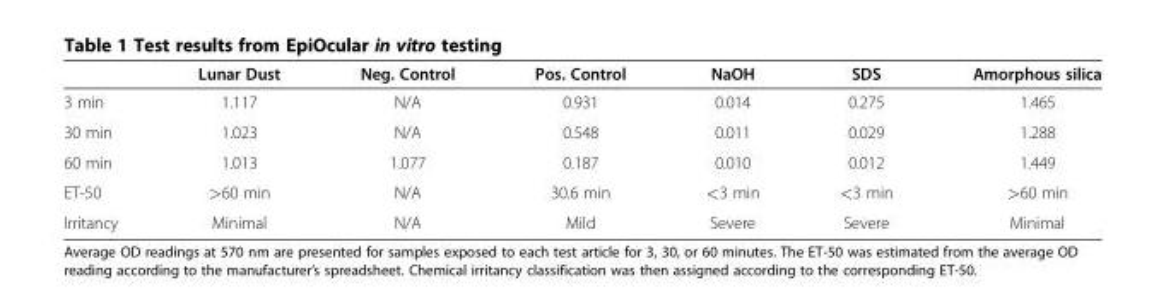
<table><thead><tr><td></td><td>Lunar Dust</td><td>Neg. Control</td><td>Pos. Control</td><td>NaOH</td><td>SDS</td><td>Amorphous silica</td></tr></thead><tbody><tr><td>3 min</td><td>1.117</td><td>N/A</td><td>0.931</td><td>0.014</td><td>0.275</td><td>1.465</td></tr><tr><td>30 min</td><td>1.023</td><td>N/A</td><td>0.548</td><td>0.011</td><td>0.029</td><td>1.288</td></tr><tr><td>60 min</td><td>1.013</td><td>1.077</td><td>0.187</td><td>0.010</td><td>0.012</td><td>1.449</td></tr><tr><td>ET-50</td><td>&gt;60 min</td><td>N/A</td><td>30.6 min</td><td>&lt;3 min</td><td>&lt;3 min</td><td>&gt;60 min</td></tr><tr><td>Irritancy</td><td>Minimal</td><td>N/A</td><td>Mild</td><td>Severe</td><td>Severe</td><td>Minimal</td></tr></tbody></table>